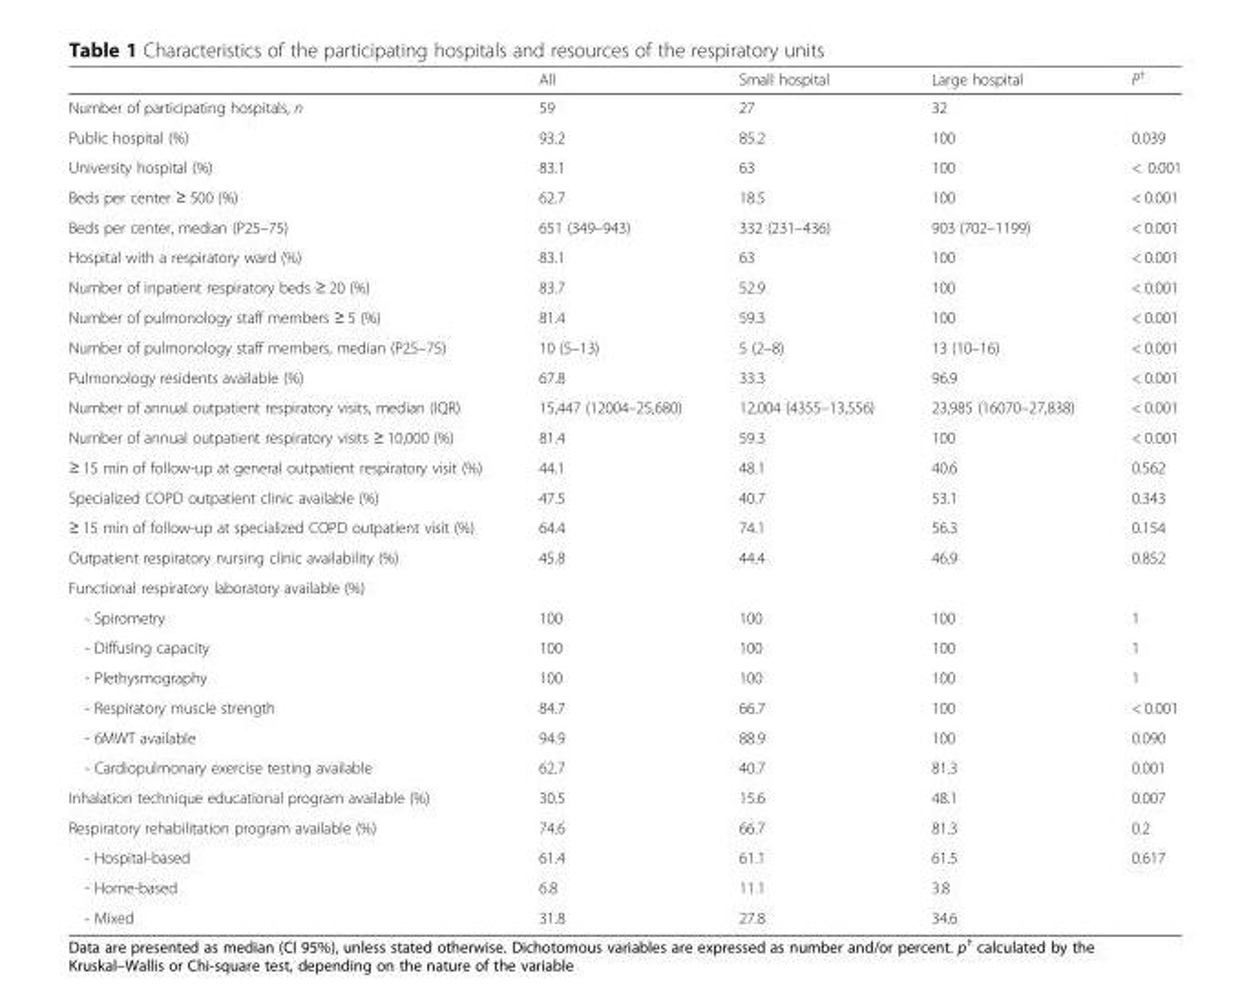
<table><thead><tr><td></td><td>All</td><td>Small hospital</td><td>Large hospital</td><td>P<sup>†</sup></td></tr></thead><tbody><tr><td>Number of participating hospitals, n</td><td>59</td><td>27</td><td>32</td><td></td></tr><tr><td>Public hospital (%)</td><td>93.2</td><td>85.2</td><td>100</td><td>0.039</td></tr><tr><td>University hospital (%)</td><td>83.1</td><td>63</td><td>100</td><td>&lt; 0.001</td></tr><tr><td>Beds per center ≥ 500 (%)</td><td>62.7</td><td>18.5</td><td>100</td><td>&lt; 0.001</td></tr><tr><td>Beds per center, median (P25–75)</td><td>651 (349–943)</td><td>332 (231–436)</td><td>903 (702–1199)</td><td>&lt; 0.001</td></tr><tr><td>Hospital with a respiratory ward (%)</td><td>83.1</td><td>63</td><td>100</td><td>&lt; 0.001</td></tr><tr><td>Number of inpatient respiratory beds ≥ 20 (%)</td><td>83.7</td><td>52.9</td><td>100</td><td>&lt; 0.001</td></tr><tr><td>Number of pulmonology staff members ≥ 5 (%)</td><td>81.4</td><td>59.3</td><td>100</td><td>&lt; 0.001</td></tr><tr><td>Number of pulmonology staff members, median (P25–75)</td><td>10 (5–13)</td><td>5 (2–8)</td><td>13 (10–16)</td><td>&lt; 0.001</td></tr><tr><td>Pulmonology residents available (%)</td><td>67.8</td><td>33.3</td><td>96.9</td><td>&lt; 0.001</td></tr><tr><td>Number of annual outpatient respiratory visits, median (IQR)</td><td>15,447 (12004–25,680)</td><td>12,004 (4355–13,556)</td><td>23,985 (16070–27,838)</td><td>&lt; 0.001</td></tr><tr><td>Number of annual outpatient respiratory visits ≥ 10,000 (%)</td><td>81.4</td><td>59.3</td><td>100</td><td>&lt; 0.001</td></tr><tr><td>≥ 15 min of follow-up at general outpatient respiratory visit (%)</td><td>44.1</td><td>48.1</td><td>40.6</td><td>0.562</td></tr><tr><td>Specialized COPD outpatient clinic available (%)</td><td>47.5</td><td>40.7</td><td>53.1</td><td>0.343</td></tr><tr><td>≥ 15 min of follow-up at specialized COPD outpatient visit (%)</td><td>64.4</td><td>74.1</td><td>56.3</td><td>0.154</td></tr><tr><td>Outpatient respiratory nursing clinic availability (%)</td><td>45.8</td><td>44.4</td><td>46.9</td><td>0.852</td></tr><tr><td colspan="5">Functional respiratory laboratory available (%)</td></tr><tr><td>- Spirometry</td><td>100</td><td>100</td><td>100</td><td>1</td></tr><tr><td>- Diffusing capacity</td><td>100</td><td>100</td><td>100</td><td>1</td></tr><tr><td>- Plethysmography</td><td>100</td><td>100</td><td>100</td><td>1</td></tr><tr><td>- Respiratory muscle strength</td><td>84.7</td><td>66.7</td><td>100</td><td>&lt; 0.001</td></tr><tr><td>- 6MWT available</td><td>94.9</td><td>88.9</td><td>100</td><td>0.090</td></tr><tr><td>- Cardiopulmonary exercise testing available</td><td>62.7</td><td>40.7</td><td>81.3</td><td>0.001</td></tr><tr><td>Inhalation technique educational program available (%)</td><td>30.5</td><td>15.6</td><td>48.1</td><td>0.007</td></tr><tr><td>Respiratory rehabilitation program available (%)</td><td>74.6</td><td>66.7</td><td>81.3</td><td>0.2</td></tr><tr><td>- Hospital-based</td><td>61.4</td><td>61.1</td><td>61.5</td><td>0.617</td></tr><tr><td>- Home-based</td><td>6.8</td><td>11.1</td><td>3.8</td><td></td></tr><tr><td>- Mixed</td><td>31.8</td><td>27.8</td><td>34.6</td><td></td></tr></tbody></table>